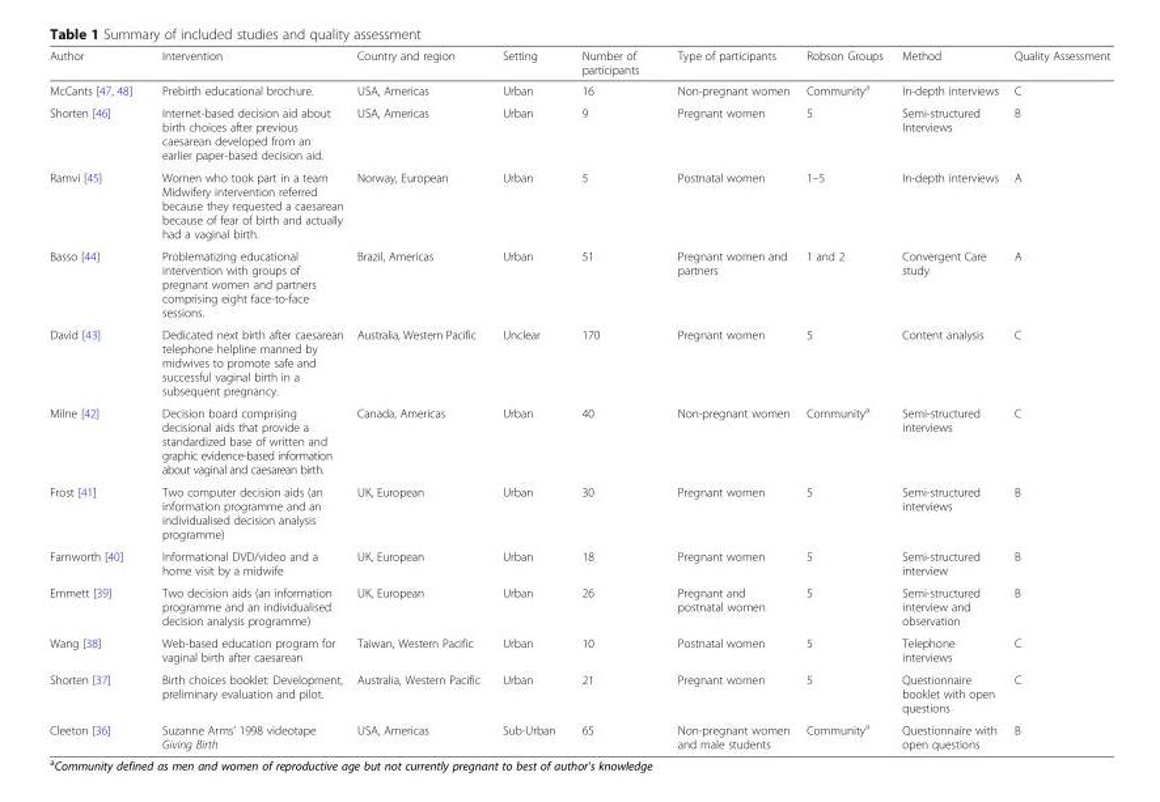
<table><thead><tr><td>Author</td><td>Intervention</td><td>Country and region</td><td>Setting</td><td>Number of participants</td><td>Type of participants</td><td>Robson Groups</td><td>Method</td><td>Quality Assessment</td></tr></thead><tbody><tr><td>McCants [47, 48]</td><td>Prebirth educational brochure.</td><td>USA, Americas</td><td>Urban</td><td>16</td><td>Non-pregnant women</td><td>Community<sup>a</sup></td><td>In-depth interviews</td><td>C</td></tr><tr><td>Shorten [46]</td><td>Internet-based decision aid about birth choices after previous caesarean developed from an earlier paper-based decision aid.</td><td>USA, Americas</td><td>Urban</td><td>9</td><td>Pregnant women</td><td>5</td><td>Semi-structured Interviews</td><td>B</td></tr><tr><td>Ramvi [45]</td><td>Women who took part in a team Midwifery intervention referred because they requested a caesarean because of fear of birth and actually had a vaginal birth.</td><td>Norway, European</td><td>Urban</td><td>5</td><td>Postnatal women</td><td>1–5</td><td>In-depth interviews</td><td>A</td></tr><tr><td>Basso [44]</td><td>Problematizing educational intervention with groups of pregnant women and partners comprising eight face-to-face sessions.</td><td>Brazil, Americas</td><td>Urban</td><td>51</td><td>Pregnant women and partners</td><td>1 and 2</td><td>Convergent Care study</td><td>A</td></tr><tr><td>David [43]</td><td>Dedicated next birth after caesarean telephone helpline manned by midwives to promote safe and successful vaginal birth in a subsequent pregnancy.</td><td>Australia, Western Pacific</td><td>Unclear</td><td>170</td><td>Pregnant women</td><td>5</td><td>Content analysis</td><td>C</td></tr><tr><td>Milne [42]</td><td>Decision board comprising decisional aids that provide a standardized base of written and graphic evidence-based information about vaginal and caesarean birth.</td><td>Canada, Americas</td><td>Urban</td><td>40</td><td>Non-pregnant women</td><td>Community<sup>a</sup></td><td>Semi-structured interviews</td><td>C</td></tr><tr><td>Frost [41]</td><td>Two computer decision aids (an information programme and an individualised decision analysis programme)</td><td>UK, European</td><td>Urban</td><td>30</td><td>Pregnant women</td><td>5</td><td>Semi-structured interviews</td><td>B</td></tr><tr><td>Farnworth [40]</td><td>Informational DVD/video and a home visit by a midwife</td><td>UK, European</td><td>Urban</td><td>18</td><td>Pregnant women</td><td>5</td><td>Semi-structured interview</td><td>B</td></tr><tr><td>Emmett [39]</td><td>Two decision aids (an information programme and an individualised decision analysis programme)</td><td>UK, European</td><td>Urban</td><td>26</td><td>Pregnant and postnatal women</td><td>5</td><td>Semi-structured interview and observation</td><td>B</td></tr><tr><td>Wang [38]</td><td>Web-based education program for vaginal birth after caesarean</td><td>Taiwan, Western Pacific</td><td>Urban</td><td>10</td><td>Postnatal women</td><td>5</td><td>Telephone interviews</td><td>C</td></tr><tr><td>Shorten [37]</td><td>Birth choices booklet: Development, preliminary evaluation and pilot.</td><td>Australia, Western Pacific</td><td>Urban</td><td>21</td><td>Pregnant women</td><td>5</td><td>Questionnaire booklet with open questions</td><td>C</td></tr><tr><td>Cleeton [36]</td><td>Suzanne Arms’ 1998 videotape Giving Birth</td><td>USA, Americas</td><td>Sub-Urban</td><td>65</td><td>Non-pregnant women and male students</td><td>Community<sup>a</sup></td><td>Questionnaire with open questions</td><td>B</td></tr></tbody></table>